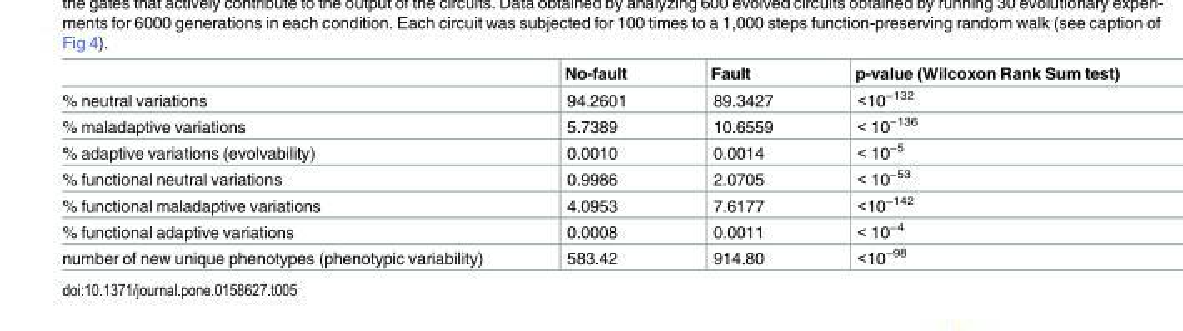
<table><thead><tr><td></td><td>No-fault</td><td>Fault</td><td>p-value (Wilcoxon Rank Sum test)</td></tr></thead><tbody><tr><td>% neutral variations</td><td>94.2601</td><td>89.3427</td><td>&lt;10<sup>−132</sup></td></tr><tr><td>% maladaptive variations</td><td>5.7389</td><td>10.6559</td><td>&lt; 10<sup>−136</sup></td></tr><tr><td>% adaptive variations (evolvability)</td><td>0.0010</td><td>0.0014</td><td>&lt; 10<sup>−5</sup></td></tr><tr><td>% functional neutral variations</td><td>0.9986</td><td>2.0705</td><td>&lt; 10<sup>−53</sup></td></tr><tr><td>% functional maladaptive variations</td><td>4.0953</td><td>7.6177</td><td>&lt;10<sup>−142</sup></td></tr><tr><td>% functional adaptive variations</td><td>0.0008</td><td>0.0011</td><td>&lt; 10<sup>−4</sup></td></tr><tr><td>number of new unique phenotypes (phenotypic variability)</td><td>583.42</td><td>914.80</td><td>&lt;10<sup>−98</sup></td></tr></tbody></table>